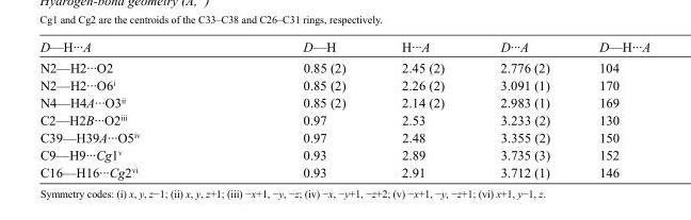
<table><tbody><tr><td>D—H···A</td><td>D—H</td><td>H···A</td><td>D···A</td><td>D—H···A</td></tr><tr><td>N2—H2···O2</td><td>0.85 (2)</td><td>2.45 (2)</td><td>2.776 (2)</td><td>104</td></tr><tr><td>N2—H2···O6<sup>i</sup></td><td>0.85 (2)</td><td>2.26 (2)</td><td>3.091 (1)</td><td>170</td></tr><tr><td>N4—H4A···O3<sup>ii</sup></td><td>0.85 (2)</td><td>2.14 (2)</td><td>2.983 (1)</td><td>169</td></tr><tr><td>C2—H2B···O2<sup>iii</sup></td><td>0.97</td><td>2.53</td><td>3.233 (2)</td><td>130</td></tr><tr><td>C39—H39A···O5<sup>iv</sup></td><td>0.97</td><td>2.48</td><td>3.355 (2)</td><td>150</td></tr><tr><td>C9—H9···Cg1<sup>v</sup></td><td>0.93</td><td>2.89</td><td>3.735 (3)</td><td>152</td></tr><tr><td>C16—H16···Cg2<sup>vi</sup></td><td>0.93</td><td>2.91</td><td>3.712 (1)</td><td>146</td></tr></tbody></table>